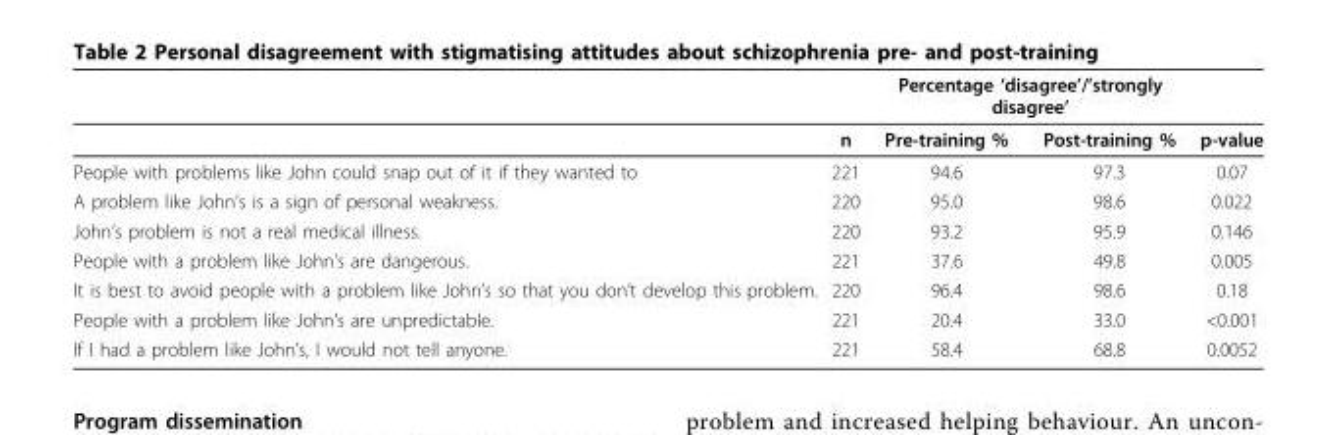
<table><thead><tr><td rowspan="2"></td><td rowspan="2">n</td><td colspan="2">Percentage ‘disagree’/’strongly disagree’</td><td rowspan="2">p-value</td></tr><tr><td>Pre-training %</td><td>Post-training %</td></tr></thead><tbody><tr><td>People with problems like John could snap out of it if they wanted to</td><td>221</td><td>94.6</td><td>97.3</td><td>0.07</td></tr><tr><td>A problem like John’s is a sign of personal weakness.</td><td>220</td><td>95.0</td><td>98.6</td><td>0.022</td></tr><tr><td>John’s problem is not a real medical illness.</td><td>220</td><td>93.2</td><td>95.9</td><td>0.146</td></tr><tr><td>People with a problem like John’s are dangerous.</td><td>221</td><td>37.6</td><td>49.8</td><td>0.005</td></tr><tr><td>It is best to avoid people with a problem like John’s so that you don’t develop this problem.</td><td>220</td><td>96.4</td><td>98.6</td><td>0.18</td></tr><tr><td>People with a problem like John’s are unpredictable.</td><td>221</td><td>20.4</td><td>33.0</td><td>&lt;0.001</td></tr><tr><td>If I had a problem like John’s, I would not tell anyone.</td><td>221</td><td>58.4</td><td>68.8</td><td>0.0052</td></tr></tbody></table>